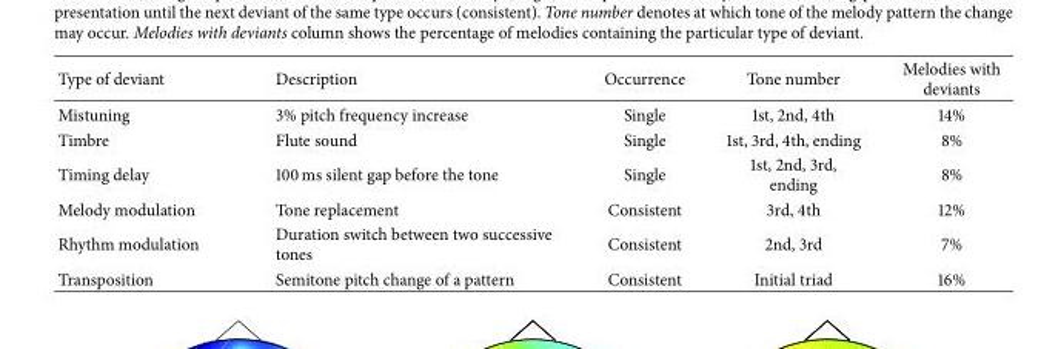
<table><thead><tr><td>Type of deviant</td><td>Description</td><td>Occurrence</td><td>Tone number</td><td>Melodies with deviants</td></tr></thead><tbody><tr><td>Mistuning</td><td>3% pitch frequency increase</td><td>Single</td><td>1st, 2nd, 4th</td><td>14%</td></tr><tr><td>Timbre</td><td>Flute sound</td><td>Single</td><td>1st, 3rd, 4th, ending</td><td>8%</td></tr><tr><td>Timing delay</td><td>100 ms silent gap before the tone</td><td>Single</td><td>1st, 2nd, 3rd, ending</td><td>8%</td></tr><tr><td>Melody modulation</td><td>Tone replacement</td><td>Consistent</td><td>3rd, 4th</td><td>12%</td></tr><tr><td>Rhythm modulation</td><td>Duration switch between two successive tones</td><td>Consistent</td><td>2nd, 3rd</td><td>7%</td></tr><tr><td>Transposition</td><td>Semitone pitch change of a pattern</td><td>Consistent</td><td>Initial triad</td><td>16%</td></tr></tbody></table>